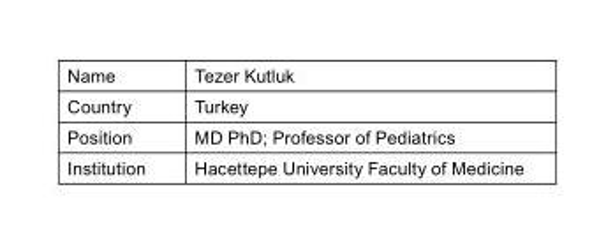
<table><tbody><tr><td>Name</td><td>Tezer Kutluk</td></tr><tr><td>Country</td><td>Turkey</td></tr><tr><td>Position</td><td>MD PhD; Professor of Pediatrics</td></tr><tr><td>Institution</td><td>Hacettepe University Faculty of Medicine</td></tr></tbody></table>